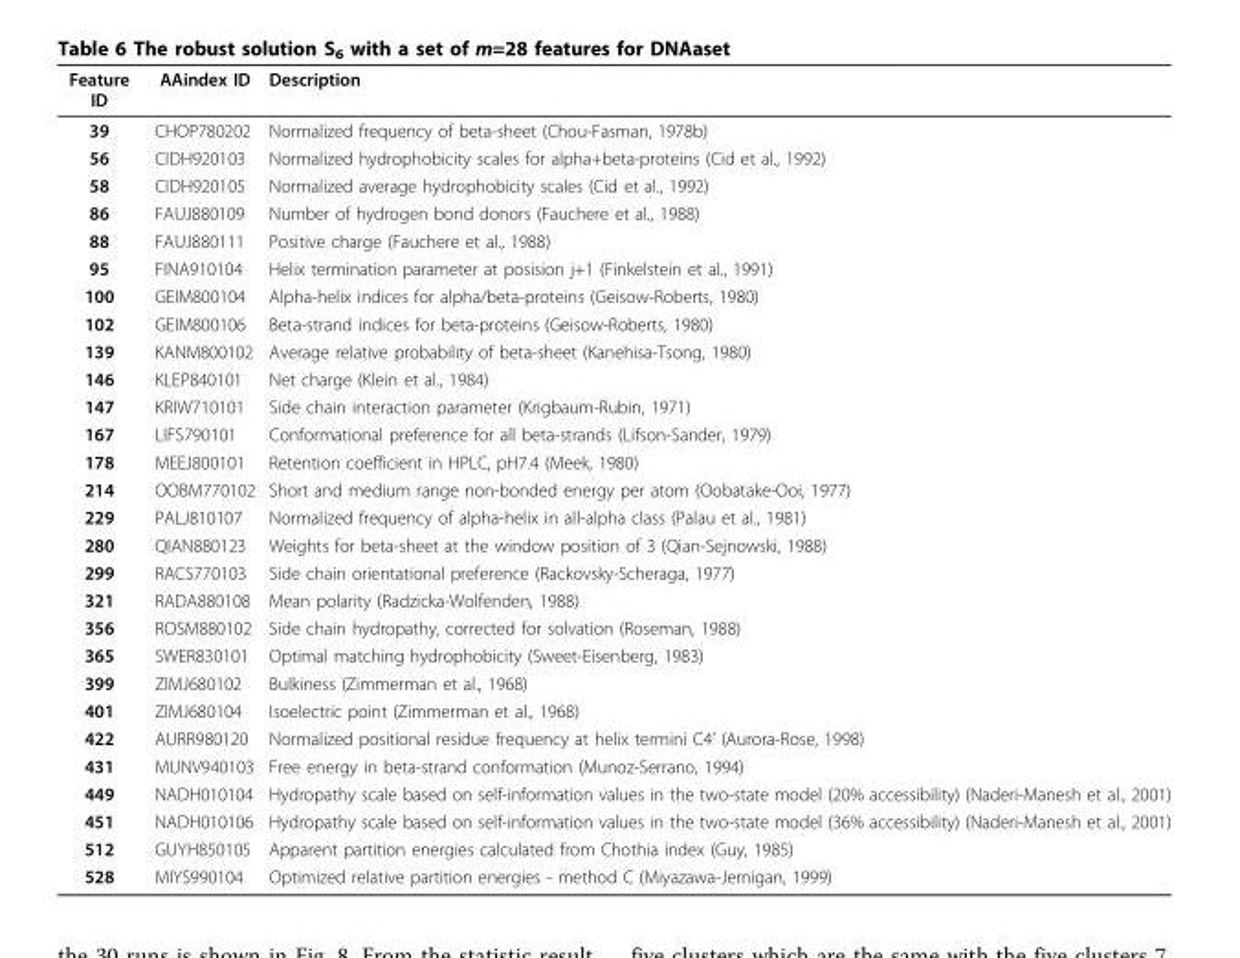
<table><thead><tr><td>Feature ID</td><td>AAindex ID</td><td>Description</td></tr></thead><tbody><tr><td>39</td><td>CHOP780202</td><td>Normalized frequency of beta-sheet (Chou-Fasman, 1978b)</td></tr><tr><td>56</td><td>CIDH920103</td><td>Normalized hydrophobicity scales for alpha+beta-proteins (Cid et al., 1992)</td></tr><tr><td>58</td><td>CIDH920105</td><td>Normalized average hydrophobicity scales (Cid et al., 1992)</td></tr><tr><td>86</td><td>FAUJ880109</td><td>Number of hydrogen bond donors (Fauchere et al., 1988)</td></tr><tr><td>88</td><td>FAUJ880111</td><td>Positive charge (Fauchere et al., 1988)</td></tr><tr><td>95</td><td>FINA910104</td><td>Helix termination parameter at posision j+1 (Finkelstein et al., 1991)</td></tr><tr><td>100</td><td>GEIM800104</td><td>Alpha-helix indices for alpha/beta-proteins (Geisow-Roberts, 1980)</td></tr><tr><td>102</td><td>GEIM800106</td><td>Beta-strand indices for beta-proteins (Geisow-Roberts, 1980)</td></tr><tr><td>139</td><td>KANM800102</td><td>Average relative probability of beta-sheet (Kanehisa-Tsong, 1980)</td></tr><tr><td>146</td><td>KLEP840101</td><td>Net charge (Klein et al., 1984)</td></tr><tr><td>147</td><td>KRIW710101</td><td>Side chain interaction parameter (Krigbaum-Rubin, 1971)</td></tr><tr><td>167</td><td>LIFS790101</td><td>Conformational preference for all beta-strands (Lifson-Sander, 1979)</td></tr><tr><td>178</td><td>MEEJ800101</td><td>Retention coefficient in HPLC, pH7.4 (Meek, 1980)</td></tr><tr><td>214</td><td>OOBM770102</td><td>Short and medium range non-bonded energy per atom (Oobatake-Ooi, 1977)</td></tr><tr><td>229</td><td>PALJ810107</td><td>Normalized frequency of alpha-helix in all-alpha class (Palau et al., 1981)</td></tr><tr><td>280</td><td>QIAN880123</td><td>Weights for beta-sheet at the window position of 3 (Qian-Sejnowski, 1988)</td></tr><tr><td>299</td><td>RACS770103</td><td>Side chain orientational preference (Rackovsky-Scheraga, 1977)</td></tr><tr><td>321</td><td>RADA880108</td><td>Mean polarity (Radzicka-Wolfenden, 1988)</td></tr><tr><td>356</td><td>ROSM880102</td><td>Side chain hydropathy, corrected for solvation (Roseman, 1988)</td></tr><tr><td>365</td><td>SWER830101</td><td>Optimal matching hydrophobicity (Sweet-Eisenberg, 1983)</td></tr><tr><td>399</td><td>ZIMJ680102</td><td>Bulkiness (Zimmerman et al., 1968)</td></tr><tr><td>401</td><td>ZIMJ680104</td><td>Isoelectric point (Zimmerman et al., 1968)</td></tr><tr><td>422</td><td>AURR980120</td><td>Normalized positional residue frequency at helix termini C4’ (Aurora-Rose, 1998)</td></tr><tr><td>431</td><td>MUNV940103</td><td>Free energy in beta-strand conformation (Munoz-Serrano, 1994)</td></tr><tr><td>449</td><td>NADH010104</td><td>Hydropathy scale based on self-information values in the two-state model (20% accessibility) (Naderi-Manesh et al., 2001)</td></tr><tr><td>451</td><td>NADH010106</td><td>Hydropathy scale based on self-information values in the two-state model (36% accessibility) (Naderi-Manesh et al., 2001)</td></tr><tr><td>512</td><td>GUYH850105</td><td>Apparent partition energies calculated from Chothia index (Guy, 1985)</td></tr><tr><td>528</td><td>MIYS990104</td><td>Optimized relative partition energies - method C (Miyazawa-Jernigan, 1999)</td></tr></tbody></table>